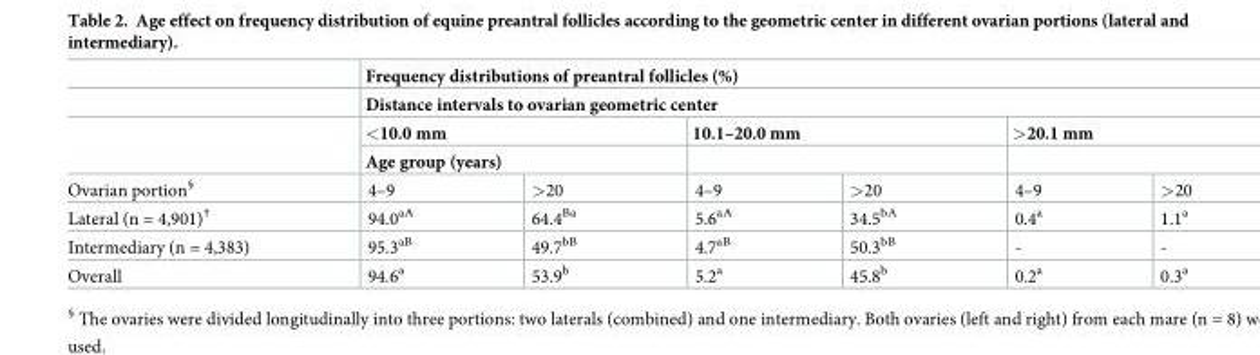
<table><thead><tr><td rowspan="5">Ovarian portion<sup>§</sup></td><td rowspan="2" colspan="6">Frequency distributions of preantral follicles (%) Distance intervals to ovarian geometric center</td></tr><tr></tr><tr><td rowspan="2" colspan="2">&lt;10.0 mm Age group (years)</td><td colspan="2">10.1–20.0 mm</td><td colspan="2">&gt;20.1 mm</td></tr><tr><td rowspan="2">4–9</td><td rowspan="2">&gt;20</td><td rowspan="2">4–9</td><td rowspan="2">&gt;20</td></tr><tr><td>4–9</td><td>&gt;20</td></tr></thead><tbody><tr><td>Lateral (n = 4,901)<sup>†</sup></td><td>94.0<sup>aA</sup></td><td>64.4<sup>Ba</sup></td><td>5.6<sup>aA</sup></td><td>34.5<sup>bA</sup></td><td>0.4<sup>a</sup></td><td>1.1<sup>a</sup></td></tr><tr><td>Intermediary (n = 4,383)</td><td>95.3<sup>aB</sup></td><td>49.7<sup>bB</sup></td><td>4.7<sup>aB</sup></td><td>50.3<sup>bB</sup></td><td>-</td><td>-</td></tr><tr><td>Overall</td><td>94.6<sup>a</sup></td><td>53.9<sup>b</sup></td><td>5.2<sup>a</sup></td><td>45.8<sup>b</sup></td><td>0.2<sup>a</sup></td><td>0.3<sup>a</sup></td></tr></tbody></table>